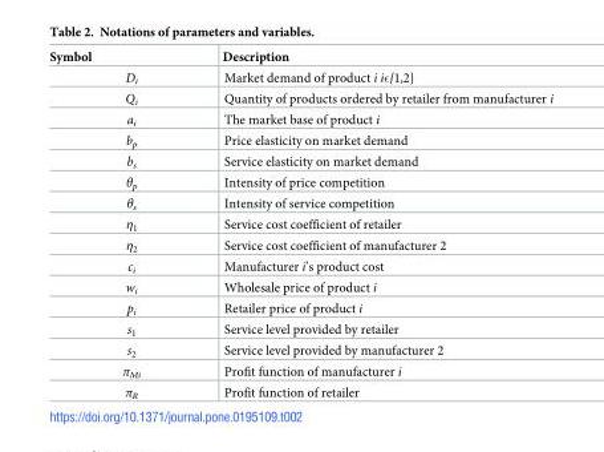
<table><thead><tr><td>Symbol</td><td>Description</td></tr></thead><tbody><tr><td>D<sub>i</sub></td><td>Market demand of product i iϵ{1,2}</td></tr><tr><td>Q<sub>i</sub></td><td>Quantity of products ordered by retailer from manufacturer i</td></tr><tr><td>a<sub>i</sub></td><td>The market base of product i</td></tr><tr><td>b<sub>p</sub></td><td>Price elasticity on market demand</td></tr><tr><td>b<sub>s</sub></td><td>Service elasticity on market demand</td></tr><tr><td>θ<sub>p</sub></td><td>Intensity of price competition</td></tr><tr><td>θ<sub>s</sub></td><td>Intensity of service competition</td></tr><tr><td>η<sub>1</sub></td><td>Service cost coefficient of retailer</td></tr><tr><td>η<sub>2</sub></td><td>Service cost coefficient of manufacturer 2</td></tr><tr><td>c<sub>i</sub></td><td>Manufacturer i’s product cost</td></tr><tr><td>w<sub>i</sub></td><td>Wholesale price of product i</td></tr><tr><td>p<sub>i</sub></td><td>Retailer price of product i</td></tr><tr><td>s<sub>1</sub></td><td>Service level provided by retailer</td></tr><tr><td>s<sub>2</sub></td><td>Service level provided by manufacturer 2</td></tr><tr><td>π<sub>Mi</sub></td><td>Profit function of manufacturer i</td></tr><tr><td>π<sub>R</sub></td><td>Profit function of retailer</td></tr></tbody></table>